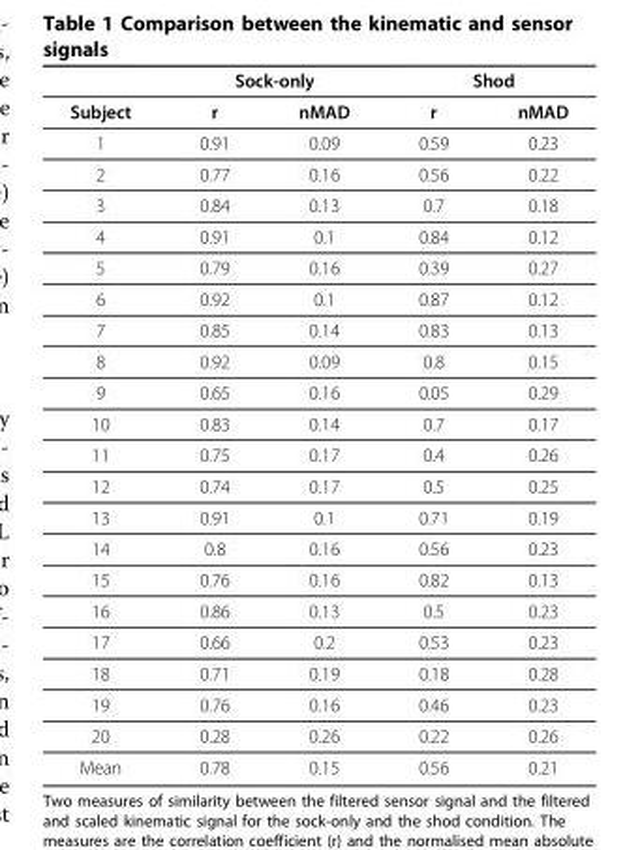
<table><thead><tr><td rowspan="2">Subject</td><td colspan="2">Sock-only</td><td colspan="2">Shod</td></tr><tr><td>r</td><td>nMAD</td><td>r</td><td>nMAD</td></tr></thead><tbody><tr><td>1</td><td>0.91</td><td>0.09</td><td>0.59</td><td>0.23</td></tr><tr><td>2</td><td>0.77</td><td>0.16</td><td>0.56</td><td>0.22</td></tr><tr><td>3</td><td>0.84</td><td>0.13</td><td>0.7</td><td>0.18</td></tr><tr><td>4</td><td>0.91</td><td>0.1</td><td>0.84</td><td>0.12</td></tr><tr><td>5</td><td>0.79</td><td>0.16</td><td>0.39</td><td>0.27</td></tr><tr><td>6</td><td>0.92</td><td>0.1</td><td>0.87</td><td>0.12</td></tr><tr><td>7</td><td>0.85</td><td>0.14</td><td>0.83</td><td>0.13</td></tr><tr><td>8</td><td>0.92</td><td>0.09</td><td>0.8</td><td>0.15</td></tr><tr><td>9</td><td>0.65</td><td>0.16</td><td>0.05</td><td>0.29</td></tr><tr><td>10</td><td>0.83</td><td>0.14</td><td>0.7</td><td>0.17</td></tr><tr><td>11</td><td>0.75</td><td>0.17</td><td>0.4</td><td>0.26</td></tr><tr><td>12</td><td>0.74</td><td>0.17</td><td>0.5</td><td>0.25</td></tr><tr><td>13</td><td>0.91</td><td>0.1</td><td>0.71</td><td>0.19</td></tr><tr><td>14</td><td>0.8</td><td>0.16</td><td>0.56</td><td>0.23</td></tr><tr><td>15</td><td>0.76</td><td>0.16</td><td>0.82</td><td>0.13</td></tr><tr><td>16</td><td>0.86</td><td>0.13</td><td>0.5</td><td>0.23</td></tr><tr><td>17</td><td>0.66</td><td>0.2</td><td>0.53</td><td>0.23</td></tr><tr><td>18</td><td>0.71</td><td>0.19</td><td>0.18</td><td>0.28</td></tr><tr><td>19</td><td>0.76</td><td>0.16</td><td>0.46</td><td>0.23</td></tr><tr><td>20</td><td>0.28</td><td>0.26</td><td>0.22</td><td>0.26</td></tr><tr><td>Mean</td><td>0.78</td><td>0.15</td><td>0.56</td><td>0.21</td></tr></tbody></table>